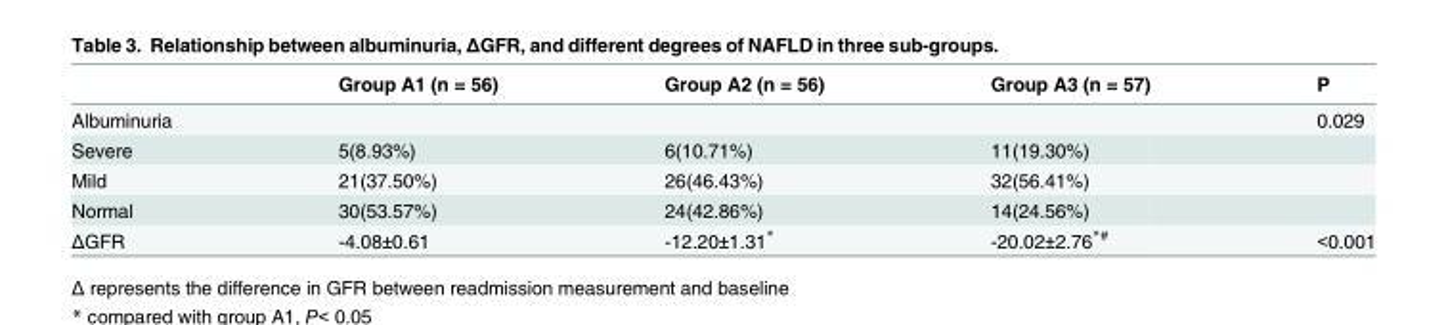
<table><thead><tr><td></td><td>Group A1 (n = 56)</td><td>Group A2 (n = 56)</td><td>Group A3 (n = 57)</td><td>P</td></tr></thead><tbody><tr><td>Albuminuria</td><td></td><td></td><td></td><td>0.029</td></tr><tr><td>Severe</td><td>5(8.93%)</td><td>6(10.71%)</td><td>11(19.30%)</td><td></td></tr><tr><td>Mild</td><td>21(37.50%)</td><td>26(46.43%)</td><td>32(56.41%)</td><td></td></tr><tr><td>Normal</td><td>30(53.57%)</td><td>24(42.86%)</td><td>14(24.56%)</td><td></td></tr><tr><td>ΔGFR</td><td>-4.08±0.61</td><td>-12.20±1.31*</td><td>-20.02±2.76<sup>*#</sup></td><td>&lt;0.001</td></tr></tbody></table>